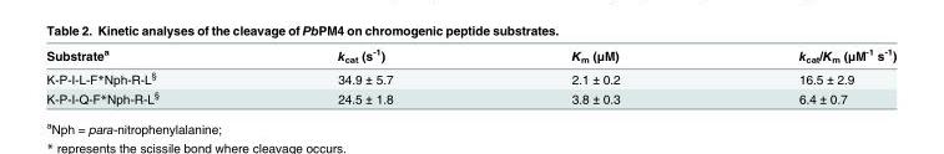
<table><thead><tr><td>Substrate<sup>a</sup></td><td>k<sub>cat</sub> (s<sup>-1</sup>)</td><td>K<sub>m</sub> (μM)</td><td>k<sub>cat</sub>/K<sub>m</sub> (μM<sup>-1</sup> s<sup>-1</sup>)</td></tr></thead><tbody><tr><td>K-P-I-L-F*Nph-R-L<sup>§</sup></td><td>34.9 ± 5.7</td><td>2.1 ± 0.2</td><td>16.5 ± 2.9</td></tr><tr><td>K-P-I-Q-F*Nph-R-L<sup>§</sup></td><td>24.5 ± 1.8</td><td>3.8 ± 0.3</td><td>6.4 ± 0.7</td></tr></tbody></table>